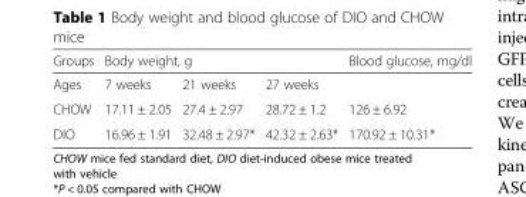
<table><thead><tr><td rowspan="2">Groups Ages</td><td colspan="3">Body weight, g</td><td rowspan="2">Blood glucose, mg/dl</td></tr><tr><td>7 weeks</td><td>21 weeks</td><td>27 weeks</td></tr></thead><tbody><tr><td>CHOW</td><td>17.11 ± 2.05</td><td>27.4 ± 2.97</td><td>28.72 ± 1.2</td><td>126 ± 6.92</td></tr><tr><td>DIO</td><td>16.96 ± 1.91</td><td>32.48 ± 2.97*</td><td>42.32 ± 2.63*</td><td>170.92 ± 10.31*</td></tr></tbody></table>